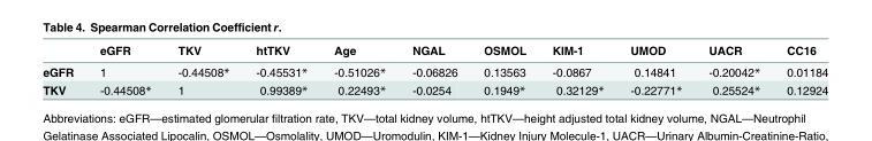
<table><thead><tr><td></td><td>eGFR</td><td>TKV</td><td>htTKV</td><td>Age</td><td>NGAL</td><td>OSMOL</td><td>KIM-1</td><td>UMOD</td><td>UACR</td><td>CC16</td></tr></thead><tbody><tr><td>eGFR</td><td>1</td><td>-0.44508*</td><td>-0.45531*</td><td>-0.51026*</td><td>-0.06826</td><td>0.13563</td><td>-0.0867</td><td>0.14841</td><td>-0.20042*</td><td>0.01184</td></tr><tr><td>TKV</td><td>-0.44508*</td><td>1</td><td>0.99389*</td><td>0.22493*</td><td>-0.0254</td><td>0.1949*</td><td>0.32129*</td><td>-0.22771*</td><td>0.25524*</td><td>0.12924</td></tr></tbody></table>